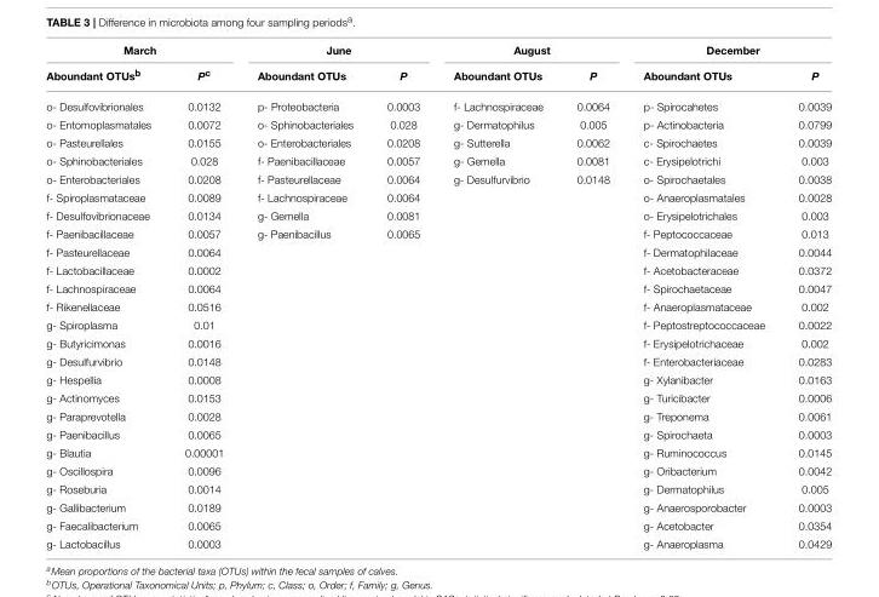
<table><thead><tr><td colspan="2">March</td><td colspan="2">June</td><td colspan="2">August</td><td colspan="2">December</td></tr><tr><td>Aboundant OTUs<sup>b</sup></td><td>P<sup>c</sup></td><td>Aboundant OTUs</td><td>P</td><td>Aboundant OTUs</td><td>P</td><td>Aboundant OTUs</td><td>P</td></tr></thead><tbody><tr><td>o- Desulfovibrionales</td><td>0.0132</td><td>p- Proteobacteria</td><td>0.0003</td><td>f- Lachnospiraceae</td><td>0.0064</td><td>p- Spirocahetes</td><td>0.0039</td></tr><tr><td>o- Entomoplasmatales</td><td>0.0072</td><td>o- Sphinobacteriales</td><td>0.028</td><td>g- Dermatophilus</td><td>0.005</td><td>p- Actinobacteria</td><td>0.0799</td></tr><tr><td>o- Pasteurellales</td><td>0.0155</td><td>o- Enterobacteriales</td><td>0.0208</td><td>g- Sutterella</td><td>0.0062</td><td>c- Spirochaetes</td><td>0.0039</td></tr><tr><td>o- Sphinobacteriales</td><td>0.028</td><td>f- Paenibacillaceae</td><td>0.0057</td><td>g- Gemella</td><td>0.0081</td><td>c- Erysipelotrichi</td><td>0.003</td></tr><tr><td>o- Enterobacteriales</td><td>0.0208</td><td>f- Pasteurellaceae</td><td>0.0064</td><td>g- Desulfurvibrio</td><td>0.0148</td><td>o- Spirochaetales</td><td>0.0038</td></tr><tr><td>f- Spiroplasmataceae</td><td>0.0089</td><td>f- Lachnospiraceae</td><td>0.0064</td><td></td><td></td><td>o- Anaeroplasmatales</td><td>0.0028</td></tr><tr><td>f- Desulfovibrionaceae</td><td>0.0134</td><td>g- Gemella</td><td>0.0081</td><td></td><td></td><td>o- Erysipelotrichales</td><td>0.003</td></tr><tr><td>f- Paenibacillaceae</td><td>0.0057</td><td>g- Paenibacillus</td><td>0.0065</td><td></td><td></td><td>f- Peptococcaceae</td><td>0.013</td></tr><tr><td>f- Pasteurellaceae</td><td>0.0064</td><td></td><td></td><td></td><td></td><td>f- Dermatophilaceae</td><td>0.0044</td></tr><tr><td>f- Lactobacillaceae</td><td>0.0002</td><td></td><td></td><td></td><td></td><td>f- Acetobacteraceae</td><td>0.0372</td></tr><tr><td>f- Lachnospiraceae</td><td>0.0064</td><td></td><td></td><td></td><td></td><td>f- Spirochaetaceae</td><td>0.0047</td></tr><tr><td>f- Rikenellaceae</td><td>0.0516</td><td></td><td></td><td></td><td></td><td>f- Anaeroplasmataceae</td><td>0.002</td></tr><tr><td>g- Spiroplasma</td><td>0.01</td><td></td><td></td><td></td><td></td><td>f- Peptostreptococcaceae</td><td>0.0022</td></tr><tr><td>g- Butyricimonas</td><td>0.0016</td><td></td><td></td><td></td><td></td><td>f- Erysipelotrichaceae</td><td>0.002</td></tr><tr><td>g- Desulfurvibrio</td><td>0.0148</td><td></td><td></td><td></td><td></td><td>f- Enterobacteriaceae</td><td>0.0283</td></tr><tr><td>g- Hespellia</td><td>0.0008</td><td></td><td></td><td></td><td></td><td>g- Xylanibacter</td><td>0.0163</td></tr><tr><td>g- Actinomyces</td><td>0.0153</td><td></td><td></td><td></td><td></td><td>g- Turicibacter</td><td>0.0006</td></tr><tr><td>g- Paraprevotella</td><td>0.0028</td><td></td><td></td><td></td><td></td><td>g- Treponema</td><td>0.0061</td></tr><tr><td>g- Paenibacillus</td><td>0.0065</td><td></td><td></td><td></td><td></td><td>g- Spirochaeta</td><td>0.0003</td></tr><tr><td>g- Blautia</td><td>0.00001</td><td></td><td></td><td></td><td></td><td>g- Ruminococcus</td><td>0.0145</td></tr><tr><td>g- Oscillospira</td><td>0.0096</td><td></td><td></td><td></td><td></td><td>g- Oribacterium</td><td>0.0042</td></tr><tr><td>g- Roseburia</td><td>0.0014</td><td></td><td></td><td></td><td></td><td>g- Dermatophilus</td><td>0.005</td></tr><tr><td>g- Gallibacterium</td><td>0.0189</td><td></td><td></td><td></td><td></td><td>g- Anaerosporobacter</td><td>0.0003</td></tr><tr><td>g- Faecalibacterium</td><td>0.0065</td><td></td><td></td><td></td><td></td><td>g- Acetobacter</td><td>0.0354</td></tr><tr><td>g- Lactobacillus</td><td>0.0003</td><td></td><td></td><td></td><td></td><td>g- Anaeroplasma</td><td>0.0429</td></tr></tbody></table>